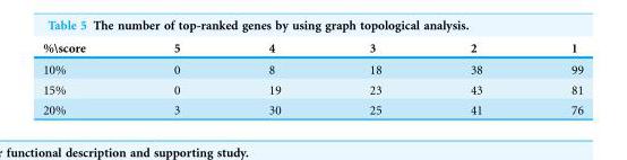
<table><thead><tr><td>%\score</td><td>5</td><td>4</td><td>3</td><td>2</td><td>1</td></tr></thead><tbody><tr><td>10%</td><td>0</td><td>8</td><td>18</td><td>38</td><td>99</td></tr><tr><td>15%</td><td>0</td><td>19</td><td>23</td><td>43</td><td>81</td></tr><tr><td>20%</td><td>3</td><td>30</td><td>25</td><td>41</td><td>76</td></tr></tbody></table>